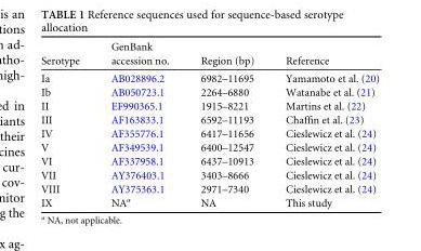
<table><thead><tr><td>Serotype</td><td>GenBank accession no.</td><td>Region (bp)</td><td>Reference</td></tr></thead><tbody><tr><td>Ia</td><td>AB028896.2</td><td>6982–11695</td><td>Yamamoto et al. (20)</td></tr><tr><td>Ib</td><td>AB050723.1</td><td>2264–6880</td><td>Watanabe et al. (21)</td></tr><tr><td>II</td><td>EF990365.1</td><td>1915–8221</td><td>Martins et al. (22)</td></tr><tr><td>III</td><td>AF163833.1</td><td>6592–11193</td><td>Chaffin et al. (23)</td></tr><tr><td>IV</td><td>AF355776.1</td><td>6417–11656</td><td>Cieslewicz et al. (24)</td></tr><tr><td>V</td><td>AF349539.1</td><td>6400–12547</td><td>Cieslewicz et al. (24)</td></tr><tr><td>VI</td><td>AF337958.1</td><td>6437–10913</td><td>Cieslewicz et al. (24)</td></tr><tr><td>VII</td><td>AY376403.1</td><td>3403–8666</td><td>Cieslewicz et al. (24)</td></tr><tr><td>VIII</td><td>AY375363.1</td><td>2971–7340</td><td>Cieslewicz et al. (24)</td></tr><tr><td>IX</td><td>NA<sup>a</sup></td><td>NA</td><td>This study</td></tr></tbody></table>